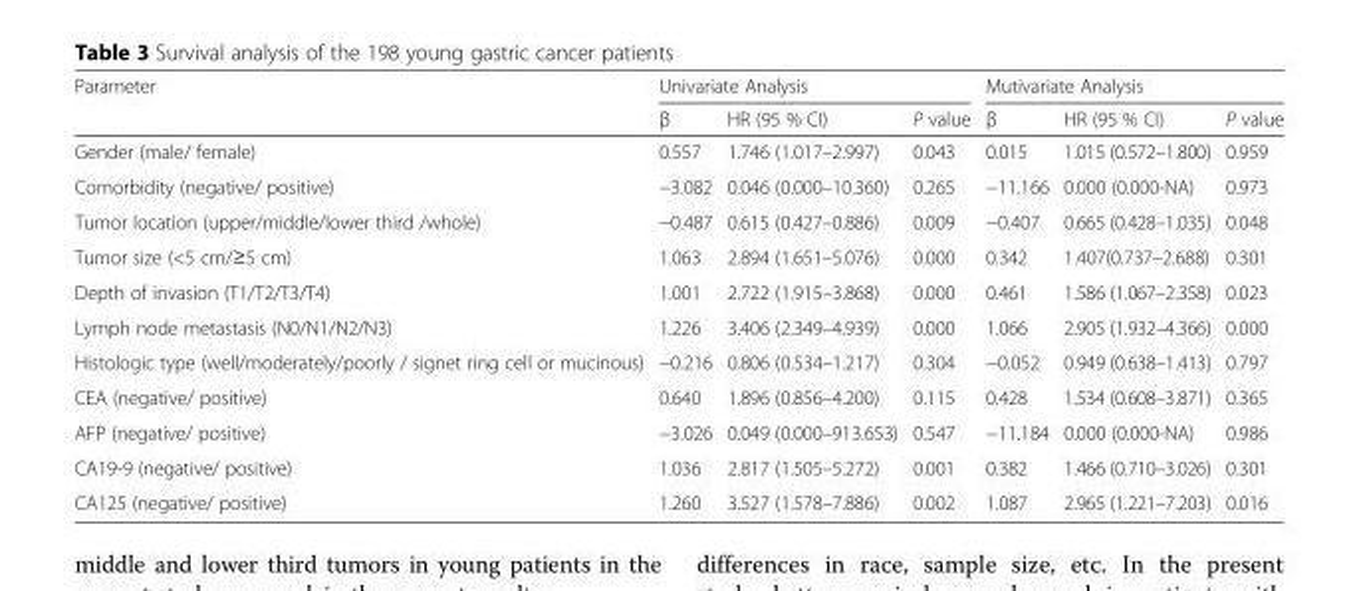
<table><thead><tr><td rowspan="2">Parameter</td><td colspan="3">Univariate Analysis</td><td colspan="3">Mutivariate Analysis</td></tr><tr><td>β</td><td>HR (95 % CI)</td><td>P value</td><td>β</td><td>HR (95 % CI)</td><td>P value</td></tr></thead><tbody><tr><td>Gender (male/ female)</td><td>0.557</td><td>1.746 (1.017–2.997)</td><td>0.043</td><td>0.015</td><td>1.015 (0.572–1.800)</td><td>0.959</td></tr><tr><td>Comorbidity (negative/ positive)</td><td>−3.082</td><td>0.046 (0.000–10.360)</td><td>0.265</td><td>−11.166</td><td>0.000 (0.000-NA)</td><td>0.973</td></tr><tr><td>Tumor location (upper/middle/lower third /whole)</td><td>−0.487</td><td>0.615 (0.427–0.886)</td><td>0.009</td><td>−0.407</td><td>0.665 (0.428–1.035)</td><td>0.048</td></tr><tr><td>Tumor size (&lt;5 cm/≥5 cm)</td><td>1.063</td><td>2.894 (1.651–5.076)</td><td>0.000</td><td>0.342</td><td>1.407(0.737–2.688)</td><td>0.301</td></tr><tr><td>Depth of invasion (T1/T2/T3/T4)</td><td>1.001</td><td>2.722 (1.915–3.868)</td><td>0.000</td><td>0.461</td><td>1.586 (1.067–2.358)</td><td>0.023</td></tr><tr><td>Lymph node metastasis (N0/N1/N2/N3)</td><td>1.226</td><td>3.406 (2.349–4.939)</td><td>0.000</td><td>1.066</td><td>2.905 (1.932–4.366)</td><td>0.000</td></tr><tr><td>Histologic type (well/moderately/poorly / signet ring cell or mucinous)</td><td>−0.216</td><td>0.806 (0.534–1.217)</td><td>0.304</td><td>−0.052</td><td>0.949 (0.638–1.413)</td><td>0.797</td></tr><tr><td>CEA (negative/ positive)</td><td>0.640</td><td>1.896 (0.856–4.200)</td><td>0.115</td><td>0.428</td><td>1.534 (0.608–3.871)</td><td>0.365</td></tr><tr><td>AFP (negative/ positive)</td><td>−3.026</td><td>0.049 (0.000–913.653)</td><td>0.547</td><td>−11.184</td><td>0.000 (0.000-NA)</td><td>0.986</td></tr><tr><td>CA19-9 (negative/ positive)</td><td>1.036</td><td>2.817 (1.505–5.272)</td><td>0.001</td><td>0.382</td><td>1.466 (0.710–3.026)</td><td>0.301</td></tr><tr><td>CA125 (negative/ positive)</td><td>1.260</td><td>3.527 (1.578–7.886)</td><td>0.002</td><td>1.087</td><td>2.965 (1.221–7.203)</td><td>0.016</td></tr></tbody></table>